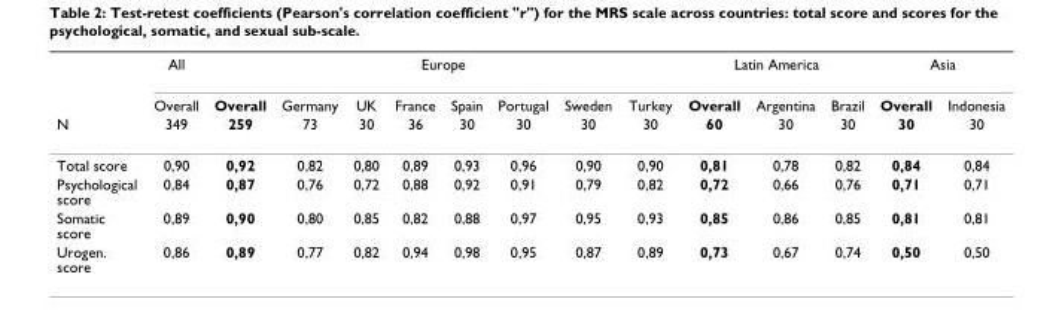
<table><thead><tr><td rowspan="3">N</td><td rowspan="3">All Overall 349</td><td colspan="8">Europe</td><td colspan="3">Latin America</td><td colspan="2">Asia</td></tr><tr><td rowspan="2">Overall 259</td><td rowspan="2">Germany 73</td><td rowspan="2">UK 30</td><td rowspan="2">France 36</td><td rowspan="2">Spain 30</td><td rowspan="2">Portugal 30</td><td rowspan="2">Sweden 30</td><td rowspan="2">Turkey 30</td><td rowspan="2">Overall 60</td><td rowspan="2">Argentina 30</td><td rowspan="2">Brazil 30</td><td rowspan="2">Overall 30</td><td rowspan="2">Indonesia 30</td></tr><tr></tr></thead><tbody><tr><td>Total score</td><td>0,90</td><td>0,92</td><td>0,82</td><td>0,80</td><td>0,89</td><td>0,93</td><td>0,96</td><td>0,90</td><td>0,90</td><td>0,81</td><td>0,78</td><td>0,82</td><td>0,84</td><td>0,84</td></tr><tr><td>Psychological score</td><td>0,84</td><td>0,87</td><td>0,76</td><td>0,72</td><td>0,88</td><td>0,92</td><td>0,91</td><td>0,79</td><td>0,82</td><td>0,72</td><td>0,66</td><td>0,76</td><td>0,71</td><td>0,71</td></tr><tr><td>Somatic score</td><td>0,89</td><td>0,90</td><td>0,80</td><td>0,85</td><td>0,82</td><td>0,88</td><td>0,97</td><td>0,95</td><td>0,93</td><td>0,85</td><td>0,86</td><td>0,85</td><td>0,81</td><td>0,81</td></tr><tr><td>Urogen. score</td><td>0,86</td><td>0,89</td><td>0,77</td><td>0,82</td><td>0,94</td><td>0,98</td><td>0,95</td><td>0,87</td><td>0,89</td><td>0,73</td><td>0,67</td><td>0,74</td><td>0,50</td><td>0,50</td></tr></tbody></table>